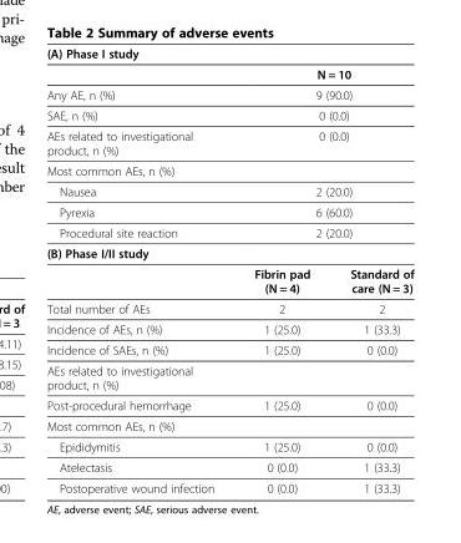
<table><thead><tr><td colspan="3">(A) Phase I study</td></tr><tr><td></td><td colspan="2">N = 10</td></tr></thead><tbody><tr><td>Any AE, n (%)</td><td colspan="2">9 (90.0)</td></tr><tr><td>SAE, n (%)</td><td colspan="2">0 (0.0)</td></tr><tr><td>AEs related to investigational product, n (%)</td><td colspan="2">0 (0.0)</td></tr><tr><td colspan="3">Most common AEs, n (%)</td></tr><tr><td>Nausea</td><td colspan="2">2 (20.0)</td></tr><tr><td>Pyrexia</td><td colspan="2">6 (60.0)</td></tr><tr><td>Procedural site reaction</td><td colspan="2">2 (20.0)</td></tr><tr><td colspan="3">(B) Phase I/II study</td></tr><tr><td></td><td>Fibrin pad (N = 4)</td><td>Standard of care (N = 3)</td></tr><tr><td>Total number of AEs</td><td>2</td><td>2</td></tr><tr><td>Incidence of AEs, n (%)</td><td>1 (25.0)</td><td>1 (33.3)</td></tr><tr><td>Incidence of SAEs, n (%)</td><td>1 (25.0)</td><td>0 (0.0)</td></tr><tr><td colspan="3">AEs related to investigational product, n (%)</td></tr><tr><td>Post-procedural hemorrhage</td><td>1 (25.0)</td><td>0 (0.0)</td></tr><tr><td colspan="3">Most common AEs, n (%)</td></tr><tr><td>Epididymitis</td><td>1 (25.0)</td><td>0 (0.0)</td></tr><tr><td>Atelectasis</td><td>0 (0.0)</td><td>1 (33.3)</td></tr><tr><td>Postoperative wound infection</td><td>0 (0.0)</td><td>1 (33.3)</td></tr></tbody></table>